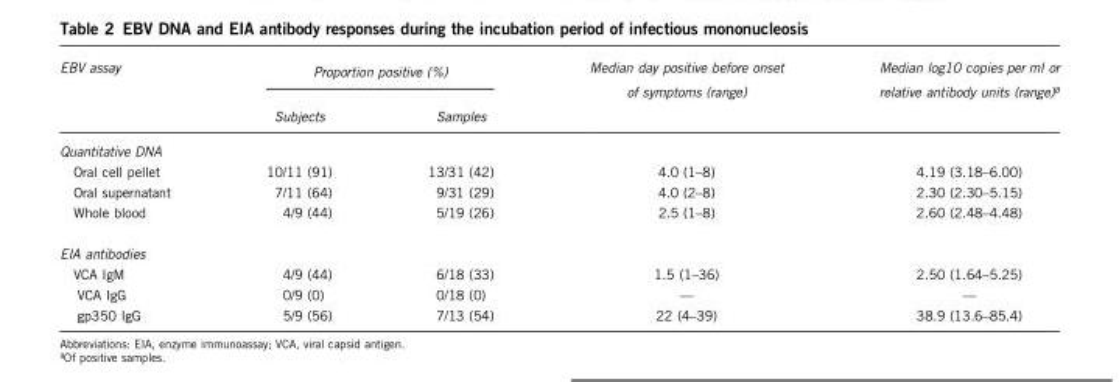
<table><thead><tr><td rowspan="2">EBV assay</td><td colspan="2">Proportion positive (%)</td><td rowspan="2">Median day positive before onset of symptoms (range)</td><td rowspan="2">Median log10 copies per ml or relative antibody units (range)<sup>a</sup></td></tr><tr><td>Subjects</td><td>Samples</td></tr></thead><tbody><tr><td colspan="5">Quantitative DNA</td></tr><tr><td>Oral cell pellet</td><td>10/11 (91)</td><td>13/31 (42)</td><td>4.0 (1–8)</td><td>4.19 (3.18–6.00)</td></tr><tr><td>Oral supernatant</td><td>7/11 (64)</td><td>9/31 (29)</td><td>4.0 (2–8)</td><td>2.30 (2.30–5.15)</td></tr><tr><td>Whole blood</td><td>4/9 (44)</td><td>5/19 (26)</td><td>2.5 (1–8)</td><td>2.60 (2.48–4.48)</td></tr><tr><td colspan="5">EIA antibodies</td></tr><tr><td>VCA IgM</td><td>4/9 (44)</td><td>6/18 (33)</td><td>1.5 (1–36)</td><td>2.50 (1.64–5.25)</td></tr><tr><td>VCA IgG</td><td>0/9 (0)</td><td>0/18 (0)</td><td>—</td><td>—</td></tr><tr><td>gp350 IgG</td><td>5/9 (56)</td><td>7/13 (54)</td><td>22 (4–39)</td><td>38.9 (13.6–85.4)</td></tr></tbody></table>